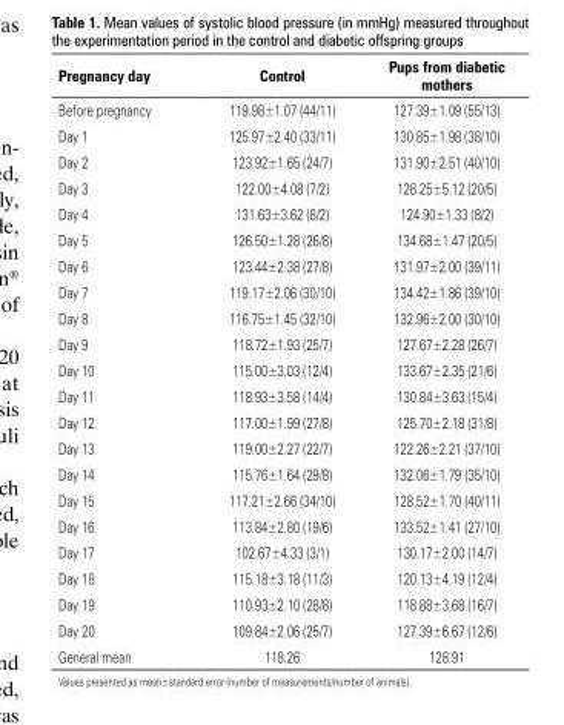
<table><thead><tr><td>Pregnancy day</td><td>Control</td><td>Pups from diabetic mothers</td></tr></thead><tbody><tr><td>Before pregnancy</td><td>119.98±1.07 (44/11)</td><td>127.39±1.09 (55/13)</td></tr><tr><td>Day 1</td><td>125.97±2.40 (33/11)</td><td>130.85±1.98 (38/10)</td></tr><tr><td>Day 2</td><td>123.92±1.65 (24/7)</td><td>131.90±2.51 (40/10)</td></tr><tr><td>Day 3</td><td>122.00±4.08 (7/2)</td><td>128.25±5.12 (20/5)</td></tr><tr><td>Day 4</td><td>131.63±3.62 (8/2)</td><td>124.90±1.33 (8/2)</td></tr><tr><td>Day 5</td><td>126.50±1.28 (26/8)</td><td>134.68±1.47 (20/5)</td></tr><tr><td>Day 6</td><td>123.44±2.38 (27/8)</td><td>131.97±2.00 (39/11)</td></tr><tr><td>Day 7</td><td>119.17±2.06 (30/10)</td><td>134.42±1.86 (39/10)</td></tr><tr><td>Day 8</td><td>116.75±1.45 (32/10)</td><td>132.96±2.00 (30/10)</td></tr><tr><td>Day 9</td><td>118.72±1.93 (25/7)</td><td>127.67±2.28 (26/7)</td></tr><tr><td>Day 10</td><td>115.00±3.03 (12/4)</td><td>133.67±2.35 (21/6)</td></tr><tr><td>Day 11</td><td>118.93±3.58 (14/4)</td><td>130.84±3.63 (15/4)</td></tr><tr><td>Day 12</td><td>117.00±1.99 (27/8)</td><td>125.70±2.18 (31/8)</td></tr><tr><td>Day 13</td><td>119.00±2.27 (22/7)</td><td>122.26±2.21 (37/10)</td></tr><tr><td>Day 14</td><td>115.76±1.64 (29/8)</td><td>132.06±1.79 (35/10)</td></tr><tr><td>Day 15</td><td>117.21±2.66 (34/10)</td><td>128.52±1.70 (40/11)</td></tr><tr><td>Day 16</td><td>113.84±2.80 (19/6)</td><td>133.52±1.41 (27/10)</td></tr><tr><td>Day 17</td><td>102.67±4.33 (3/1)</td><td>130.17±2.00 (14/7)</td></tr><tr><td>Day 18</td><td>115.18±3.18 (11/3)</td><td>120.13±4.19 (12/4)</td></tr><tr><td>Day 19</td><td>110.93±2.10 (28/8)</td><td>118.88±3.68 (16/7)</td></tr><tr><td>Day 20</td><td>109.84±2.06 (25/7)</td><td>127.39±6.67 (12/6)</td></tr><tr><td>General mean</td><td>118.26</td><td>128.91</td></tr></tbody></table>